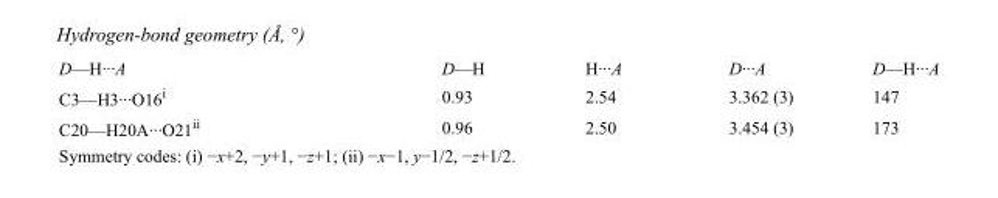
<table><tbody><tr><td>D—H···A</td><td>D—H</td><td>H···A</td><td>D···A</td><td>D—H···A</td></tr><tr><td>C3—H3···O16<sup>i</sup></td><td>0.93</td><td>2.54</td><td>3.362 (3)</td><td>147</td></tr><tr><td>C20—H20A···O21<sup>ii</sup></td><td>0.96</td><td>2.50</td><td>3.454 (3)</td><td>173</td></tr></tbody></table>